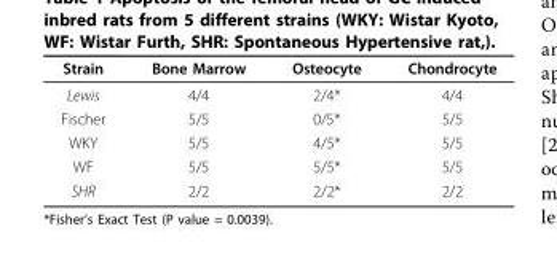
<table><thead><tr><td>Strain</td><td>Bone Marrow</td><td>Osteocyte</td><td>Chondrocyte</td></tr></thead><tbody><tr><td>Lewis</td><td>4/4</td><td>2/4*</td><td>4/4</td></tr><tr><td>Fischer</td><td>5/5</td><td>0/5*</td><td>5/5</td></tr><tr><td>WKY</td><td>5/5</td><td>4/5*</td><td>5/5</td></tr><tr><td>WF</td><td>5/5</td><td>5/5*</td><td>5/5</td></tr><tr><td>SHR</td><td>2/2</td><td>2/2*</td><td>2/2</td></tr></tbody></table>